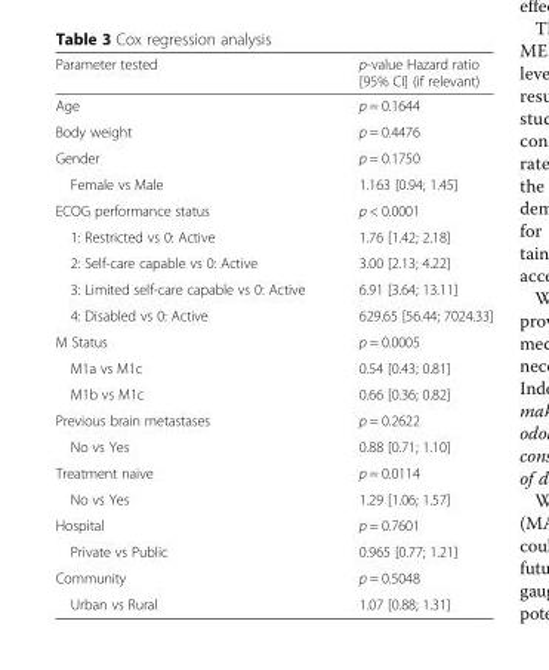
<table><thead><tr><td>Parameter tested</td><td>p-value Hazard ratio [95% CI] (if relevant)</td></tr></thead><tbody><tr><td>Age</td><td>p = 0.1644</td></tr><tr><td>Body weight</td><td>p = 0.4476</td></tr><tr><td>Gender</td><td>p = 0.1750</td></tr><tr><td>Female vs Male</td><td>1.163 [0.94; 1.45]</td></tr><tr><td>ECOG performance status</td><td>p &lt; 0.0001</td></tr><tr><td>1: Restricted vs 0: Active</td><td>1.76 [1.42; 2.18]</td></tr><tr><td>2: Self-care capable vs 0: Active</td><td>3.00 [2.13; 4.22]</td></tr><tr><td>3: Limited self-care capable vs 0: Active</td><td>6.91 [3.64; 13.11]</td></tr><tr><td>4: Disabled vs 0: Active</td><td>629.65 [56.44; 7024.33]</td></tr><tr><td>M Status</td><td>p = 0.0005</td></tr><tr><td>M1a vs M1c</td><td>0.54 [0.43; 0.81]</td></tr><tr><td>M1b vs M1c</td><td>0.66 [0.36; 0.82]</td></tr><tr><td>Previous brain metastases</td><td>p = 0.2622</td></tr><tr><td>No vs Yes</td><td>0.88 [0.71; 1.10]</td></tr><tr><td>Treatment naive</td><td>p = 0.0114</td></tr><tr><td>No vs Yes</td><td>1.29 [1.06; 1.57]</td></tr><tr><td>Hospital</td><td>p = 0.7601</td></tr><tr><td>Private vs Public</td><td>0.965 [0.77; 1.21]</td></tr><tr><td>Community</td><td>p = 0.5048</td></tr><tr><td>Urban vs Rural</td><td>1.07 [0.88; 1.31]</td></tr></tbody></table>